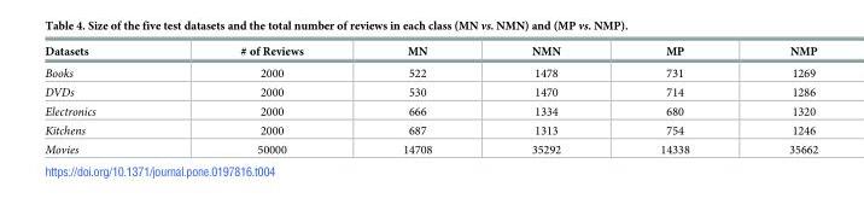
<table><thead><tr><td>Datasets</td><td># of Reviews</td><td>MN</td><td>NMN</td><td>MP</td><td>NMP</td></tr></thead><tbody><tr><td>Books</td><td>2000</td><td>522</td><td>1478</td><td>731</td><td>1269</td></tr><tr><td>DVDs</td><td>2000</td><td>530</td><td>1470</td><td>714</td><td>1286</td></tr><tr><td>Electronics</td><td>2000</td><td>666</td><td>1334</td><td>680</td><td>1320</td></tr><tr><td>Kitchens</td><td>2000</td><td>687</td><td>1313</td><td>754</td><td>1246</td></tr><tr><td>Movies</td><td>50000</td><td>14708</td><td>35292</td><td>14338</td><td>35662</td></tr></tbody></table>